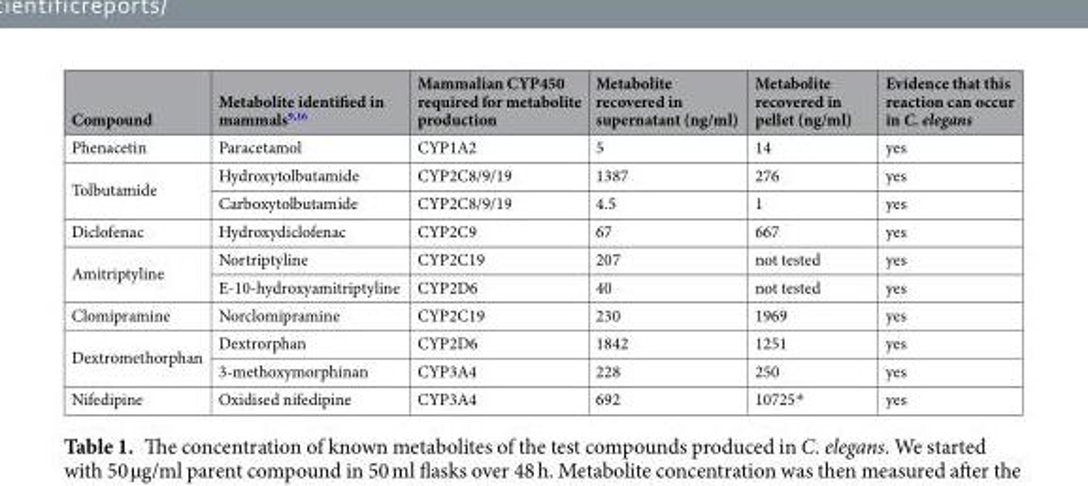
<table><thead><tr><td>Compound</td><td>Metabolite identified in mammals<sup>9,16</sup></td><td>Mammalian CYP450 required for metabolite production</td><td>Metabolite recovered in supernatant (ng/ml)</td><td>Metabolite recovered in pellet (ng/ml)</td><td>Evidence that this reaction can occur in C. elegans</td></tr></thead><tbody><tr><td>Phenacetin</td><td>Paracetamol</td><td>CYP1A2</td><td>5</td><td>14</td><td>yes</td></tr><tr><td rowspan="2">Tolbutamide</td><td>Hydroxytolbutamide</td><td>CYP2C8/9/19</td><td>1387</td><td>276</td><td>yes</td></tr><tr><td>Carboxytolbutamide</td><td>CYP2C8/9/19</td><td>4.5</td><td>1</td><td>yes</td></tr><tr><td>Diclofenac</td><td>Hydroxydiclofenac</td><td>CYP2C9</td><td>67</td><td>667</td><td>yes</td></tr><tr><td rowspan="2">Amitriptyline</td><td>Nortriptyline</td><td>CYP2C19</td><td>207</td><td>not tested</td><td>yes</td></tr><tr><td>E-10-hydroxyamitriptyline</td><td>CYP2D6</td><td>40</td><td>not tested</td><td>yes</td></tr><tr><td>Clomipramine</td><td>Norclomipramine</td><td>CYP2C19</td><td>230</td><td>1969</td><td>yes</td></tr><tr><td rowspan="2">Dextromethorphan</td><td>Dextrorphan</td><td>CYP2D6</td><td>1842</td><td>1251</td><td>yes</td></tr><tr><td>3-methoxymorphinan</td><td>CYP3A4</td><td>228</td><td>250</td><td>yes</td></tr><tr><td>Nifedipine</td><td>Oxidised nifedipine</td><td>CYP3A4</td><td>692</td><td>10725*</td><td>yes</td></tr></tbody></table>